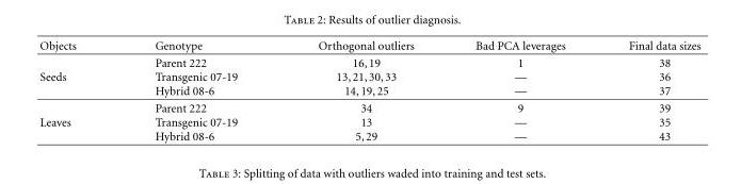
<table><thead><tr><td>Objects</td><td>Genotype</td><td>Orthogonal outliers</td><td>Bad PCA leverages</td><td>Final data sizes</td></tr></thead><tbody><tr><td>Seeds</td><td>Parent 222 Transgenic 07-19 Hybrid 08-6</td><td>16,19 13,21,30,33 14,19,25</td><td>1 — —</td><td>38 36 37</td></tr><tr><td>Leaves</td><td>Parent 222 Transgenic 07-19 Hybrid 08-6</td><td>34 13 5,29</td><td>9 — —</td><td>39 35 43</td></tr></tbody></table>